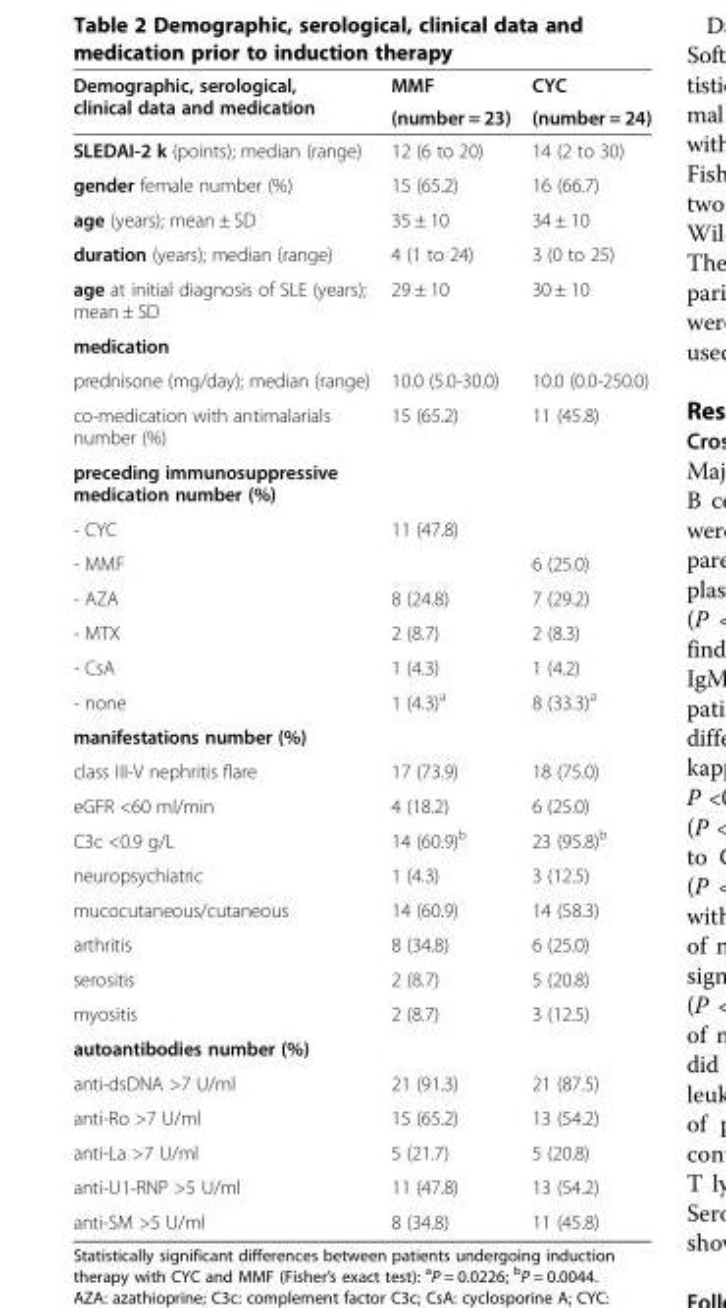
<table><thead><tr><td rowspan="2">Demographic, serological, clinical data and medication</td><td rowspan="2">MMF (number = 23)</td><td rowspan="2">CYC (number = 24)</td></tr><tr></tr></thead><tbody><tr><td>SLEDAI-2 k (points); median (range)</td><td>12 (6 to 20)</td><td>14 (2 to 30)</td></tr><tr><td>gender female number (%)</td><td>15 (65.2)</td><td>16 (66.7)</td></tr><tr><td>age (years); mean ± SD</td><td>35 ± 10</td><td>34 ± 10</td></tr><tr><td>duration (years); median (range)</td><td>4 (1 to 24)</td><td>3 (0 to 25)</td></tr><tr><td>age at initial diagnosis of SLE (years); mean ± SD</td><td>29 ± 10</td><td>30 ± 10</td></tr><tr><td colspan="3">medication</td></tr><tr><td>prednisone (mg/day); median (range)</td><td>10.0 (5.0-30.0)</td><td>10.0 (0.0-250.0)</td></tr><tr><td>co-medication with antimalarials number (%)</td><td>15 (65.2)</td><td>11 (45.8)</td></tr><tr><td colspan="3">preceding immunosuppressive medication number (%)</td></tr><tr><td>- CYC</td><td>11 (47.8)</td><td></td></tr><tr><td>- MMF</td><td></td><td>6 (25.0)</td></tr><tr><td>- AZA</td><td>8 (24.8)</td><td>7 (29.2)</td></tr><tr><td>- MTX</td><td>2 (8.7)</td><td>2 (8.3)</td></tr><tr><td>- CsA</td><td>1 (4.3)</td><td>1 (4.2)</td></tr><tr><td>- none</td><td>1 (4.3)<sup>a</sup></td><td>8 (33.3)<sup>a</sup></td></tr><tr><td colspan="3">manifestations number (%)</td></tr><tr><td>class III-V nephritis flare</td><td>17 (73.9)</td><td>18 (75.0)</td></tr><tr><td>eGFR &lt;60 ml/min</td><td>4 (18.2)</td><td>6 (25.0)</td></tr><tr><td>C3c &lt;0.9 g/L</td><td>14 (60.9)<sup>b</sup></td><td>23 (95.8)<sup>b</sup></td></tr><tr><td>neuropsychiatric</td><td>1 (4.3)</td><td>3 (12.5)</td></tr><tr><td>mucocutaneous/cutaneous</td><td>14 (60.9)</td><td>14 (58.3)</td></tr><tr><td>arthritis</td><td>8 (34.8)</td><td>6 (25.0)</td></tr><tr><td>serositis</td><td>2 (8.7)</td><td>5 (20.8)</td></tr><tr><td>myositis</td><td>2 (8.7)</td><td>3 (12.5)</td></tr><tr><td colspan="3">autoantibodies number (%)</td></tr><tr><td>anti-dsDNA &gt;7 U/ml</td><td>21 (91.3)</td><td>21 (87.5)</td></tr><tr><td>anti-Ro &gt;7 U/ml</td><td>15 (65.2)</td><td>13 (54.2)</td></tr><tr><td>anti-La &gt;7 U/ml</td><td>5 (21.7)</td><td>5 (20.8)</td></tr><tr><td>anti-U1-RNP &gt;5 U/ml</td><td>11 (47.8)</td><td>13 (54.2)</td></tr><tr><td>anti-SM &gt;5 U/ml</td><td>8 (34.8)</td><td>11 (45.8)</td></tr></tbody></table>